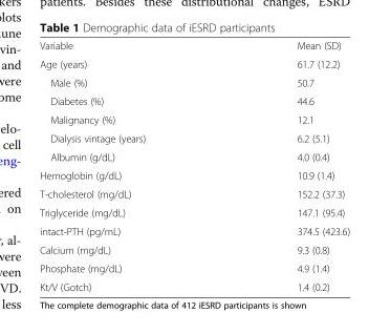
<table><tbody><tr><td>Variable</td><td>Mean (SD)</td></tr><tr><td>Age (years)</td><td>61.7 (12.2)</td></tr><tr><td>Male (%)</td><td>50.7</td></tr><tr><td>Diabetes (%)</td><td>44.6</td></tr><tr><td>Malignancy (%)</td><td>12.1</td></tr><tr><td>Dialysis vintage (years)</td><td>6.2 (5.1)</td></tr><tr><td>Albumin (g/dL)</td><td>4.0 (0.4)</td></tr><tr><td>Hemoglobin (g/dL)</td><td>10.9 (1.4)</td></tr><tr><td>T-cholesterol (mg/dL)</td><td>152.2 (37.3)</td></tr><tr><td>Triglyceride (mg/dL)</td><td>147.1 (95.4)</td></tr><tr><td>intact-PTH (pg/mL)</td><td>374.5 (423.6)</td></tr><tr><td>Calcium (mg/dL)</td><td>9.3 (0.8)</td></tr><tr><td>Phosphate (mg/dL)</td><td>4.9 (1.4)</td></tr><tr><td>Kt/V (Gotch)</td><td>1.4 (0.2)</td></tr></tbody></table>